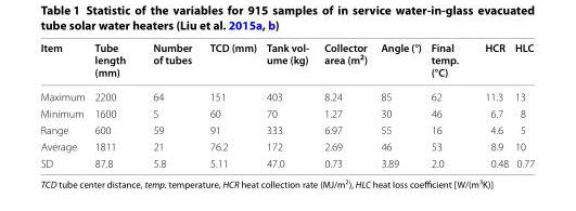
<table><thead><tr><td>Item</td><td>Tube length (mm)</td><td>Number of tubes</td><td>TCD (mm)</td><td>Tank vol- ume (kg)</td><td>Collector area (m<sup>2</sup>)</td><td>Angle (°)</td><td>Final temp. (°C)</td><td>HCR</td><td>HLC</td></tr></thead><tbody><tr><td>Maximum</td><td>2200</td><td>64</td><td>151</td><td>403</td><td>8.24</td><td>85</td><td>62</td><td>11.3</td><td>13</td></tr><tr><td>Minimum</td><td>1600</td><td>5</td><td>60</td><td>70</td><td>1.27</td><td>30</td><td>46</td><td>6.7</td><td>8</td></tr><tr><td>Range</td><td>600</td><td>59</td><td>91</td><td>333</td><td>6.97</td><td>55</td><td>16</td><td>4.6</td><td>5</td></tr><tr><td>Average</td><td>1811</td><td>21</td><td>76.2</td><td>172</td><td>2.69</td><td>46</td><td>53</td><td>8.9</td><td>10</td></tr><tr><td>SD</td><td>87.8</td><td>5.8</td><td>5.11</td><td>47.0</td><td>0.73</td><td>3.89</td><td>2.0</td><td>0.48</td><td>0.77</td></tr></tbody></table>